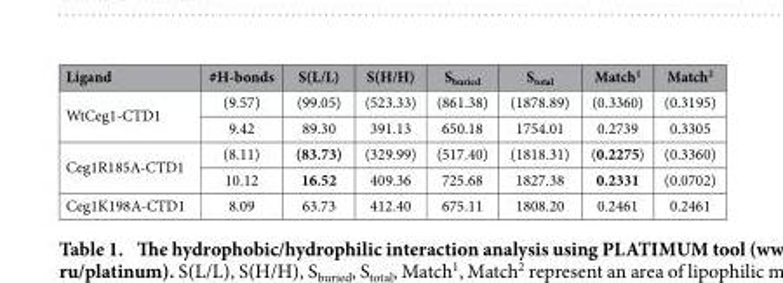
<table><thead><tr><td>Ligand</td><td>#H-bonds</td><td>S(L/L)</td><td>S(H/H)</td><td>S<sub>buried</sub></td><td>S<sub>total</sub></td><td>Match<sup>1</sup></td><td>Match<sup>2</sup></td></tr></thead><tbody><tr><td rowspan="2">WtCeg1-CTD1</td><td>(9.57)</td><td>(99.05)</td><td>(523.33)</td><td>(861.38)</td><td>(1878.89)</td><td>(0.3360)</td><td>(0.3195)</td></tr><tr><td>9.42</td><td>89.30</td><td>391.13</td><td>650.18</td><td>1754.01</td><td>0.2739</td><td>0.3305</td></tr><tr><td rowspan="2">Ceg1R185A-CTD1</td><td>(8.11)</td><td>(83.73)</td><td>(329.99)</td><td>(517.40)</td><td>(1818.31)</td><td>(0.2275)</td><td>(0.3360)</td></tr><tr><td>10.12</td><td>16.52</td><td>409.36</td><td>725.68</td><td>1827.38</td><td>0.2331</td><td>(0.0702)</td></tr><tr><td>Ceg1K198A-CTD1</td><td>8.09</td><td>63.73</td><td>412.40</td><td>675.11</td><td>1808.20</td><td>0.2461</td><td>0.2461</td></tr></tbody></table>